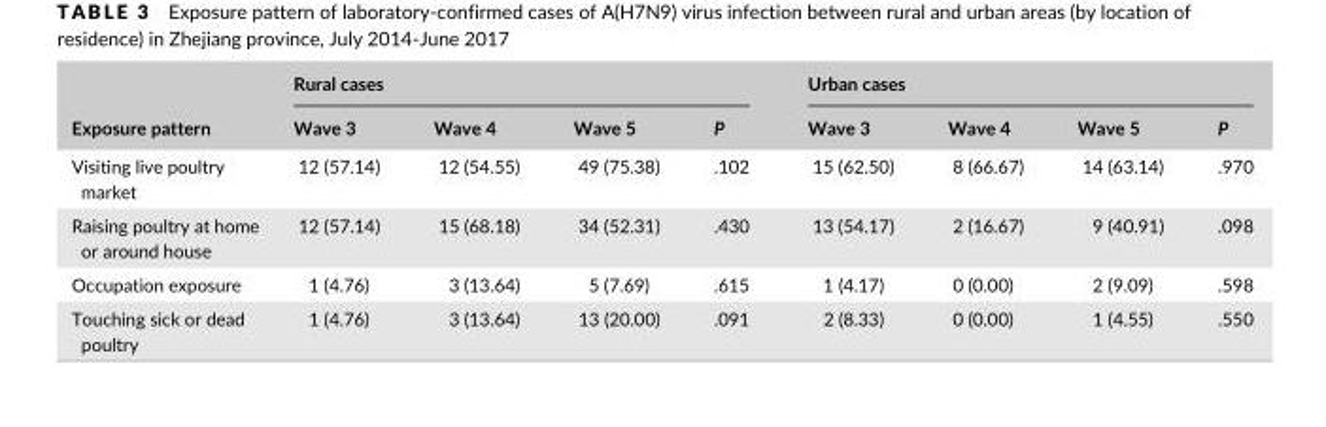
<table><thead><tr><td rowspan="2">Exposure pattern</td><td colspan="4">Rural cases</td><td colspan="4">Urban cases</td></tr><tr><td>Wave 3</td><td>Wave 4</td><td>Wave 5</td><td>P</td><td>Wave 3</td><td>Wave 4</td><td>Wave 5</td><td>P</td></tr></thead><tbody><tr><td>Visiting live poultry market</td><td>12 (57.14)</td><td>12 (54.55)</td><td>49 (75.38)</td><td>.102</td><td>15 (62.50)</td><td>8 (66.67)</td><td>14 (63.14)</td><td>.970</td></tr><tr><td>Raising poultry at home or around house</td><td>12 (57.14)</td><td>15 (68.18)</td><td>34 (52.31)</td><td>.430</td><td>13 (54.17)</td><td>2 (16.67)</td><td>9 (40.91)</td><td>.098</td></tr><tr><td>Occupation exposure</td><td>1 (4.76)</td><td>3 (13.64)</td><td>5 (7.69)</td><td>.615</td><td>1 (4.17)</td><td>0 (0.00)</td><td>2 (9.09)</td><td>.598</td></tr><tr><td>Touching sick or dead poultry</td><td>1 (4.76)</td><td>3 (13.64)</td><td>13 (20.00)</td><td>.091</td><td>2 (8.33)</td><td>0 (0.00)</td><td>1 (4.55)</td><td>.550</td></tr></tbody></table>